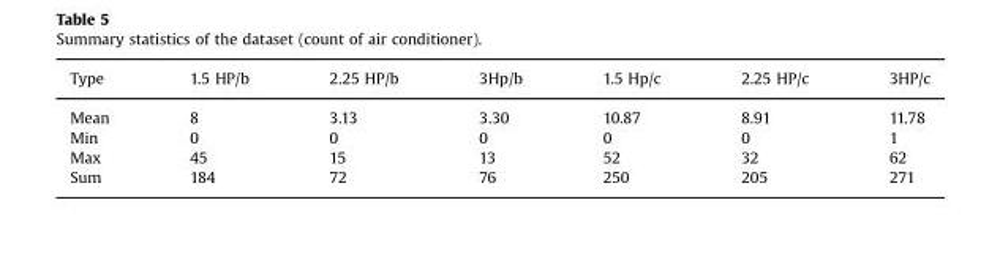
<table><thead><tr><td>Type</td><td>1.5 HP/b</td><td>2.25 HP/b</td><td>3Hp/b</td><td>1.5 Hp/c</td><td>2.25 HP/c</td><td>3HP/c</td></tr></thead><tbody><tr><td>Mean</td><td>8</td><td>3.13</td><td>3.30</td><td>10.87</td><td>8.91</td><td>11.78</td></tr><tr><td>Min</td><td>0</td><td>0</td><td>0</td><td>0</td><td>0</td><td>1</td></tr><tr><td>Max</td><td>45</td><td>15</td><td>13</td><td>52</td><td>32</td><td>62</td></tr><tr><td>Sum</td><td>184</td><td>72</td><td>76</td><td>250</td><td>205</td><td>271</td></tr></tbody></table>